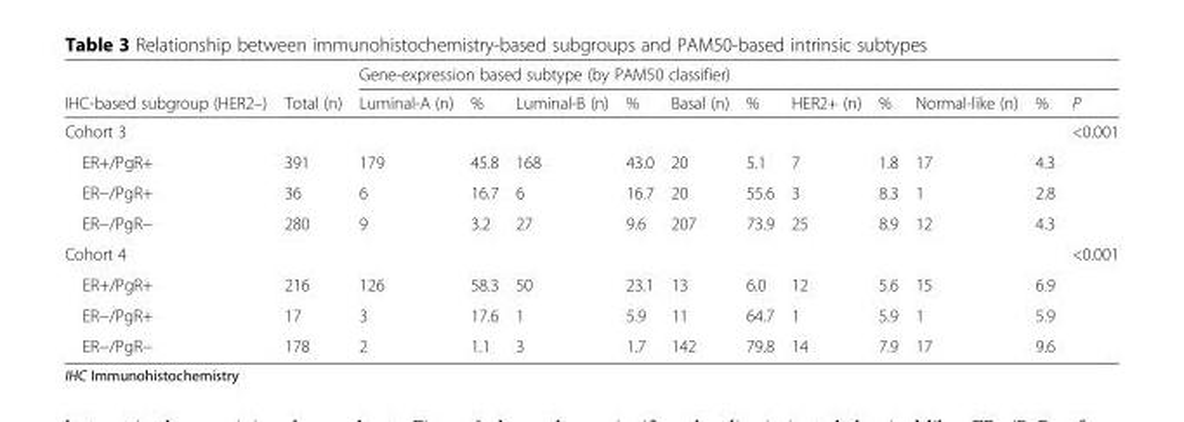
<table><thead><tr><td rowspan="2">IHC-based subgroup (HER2–)</td><td rowspan="2">Total (n)</td><td colspan="11">Gene-expression based subtype (by PAM50 classifier)</td></tr><tr><td>Luminal-A (n)</td><td>%</td><td>Luminal-B (n)</td><td>%</td><td>Basal (n)</td><td>%</td><td>HER2+ (n)</td><td>%</td><td>Normal-like (n)</td><td>%</td><td>P</td></tr></thead><tbody><tr><td>Cohort 3</td><td></td><td></td><td></td><td></td><td></td><td></td><td></td><td></td><td></td><td></td><td></td><td>&lt;0.001</td></tr><tr><td>ER+/PgR+</td><td>391</td><td>179</td><td>45.8</td><td>168</td><td>43.0</td><td>20</td><td>5.1</td><td>7</td><td>1.8</td><td>17</td><td>4.3</td><td></td></tr><tr><td>ER−/PgR+</td><td>36</td><td>6</td><td>16.7</td><td>6</td><td>16.7</td><td>20</td><td>55.6</td><td>3</td><td>8.3</td><td>1</td><td>2.8</td><td></td></tr><tr><td>ER−/PgR−</td><td>280</td><td>9</td><td>3.2</td><td>27</td><td>9.6</td><td>207</td><td>73.9</td><td>25</td><td>8.9</td><td>12</td><td>4.3</td><td></td></tr><tr><td>Cohort 4</td><td></td><td></td><td></td><td></td><td></td><td></td><td></td><td></td><td></td><td></td><td></td><td>&lt;0.001</td></tr><tr><td>ER+/PgR+</td><td>216</td><td>126</td><td>58.3</td><td>50</td><td>23.1</td><td>13</td><td>6.0</td><td>12</td><td>5.6</td><td>15</td><td>6.9</td><td></td></tr><tr><td>ER−/PgR+</td><td>17</td><td>3</td><td>17.6</td><td>1</td><td>5.9</td><td>11</td><td>64.7</td><td>1</td><td>5.9</td><td>1</td><td>5.9</td><td></td></tr><tr><td>ER−/PgR−</td><td>178</td><td>2</td><td>1.1</td><td>3</td><td>1.7</td><td>142</td><td>79.8</td><td>14</td><td>7.9</td><td>17</td><td>9.6</td><td></td></tr></tbody></table>